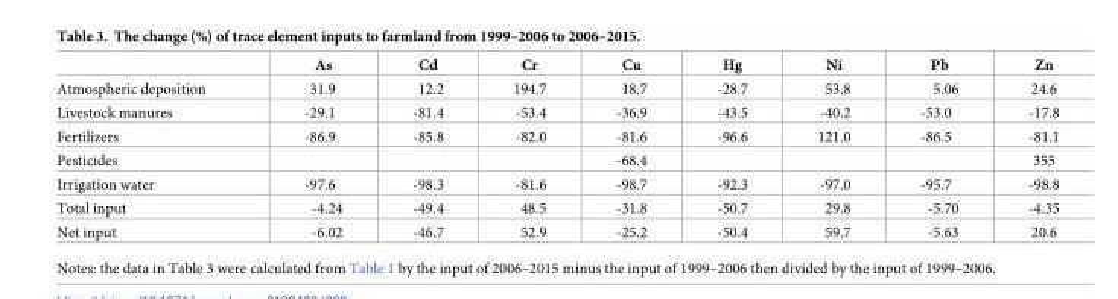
<table><thead><tr><td></td><td>As</td><td>Cd</td><td>Cr</td><td>Cu</td><td>Hg</td><td>Ni</td><td>Pb</td><td>Zn</td></tr></thead><tbody><tr><td>Atmospheric deposition</td><td>31.9</td><td>12.2</td><td>194.7</td><td>18.7</td><td>-28.7</td><td>53.8</td><td>5.06</td><td>24.6</td></tr><tr><td>Livestock manures</td><td>-29.1</td><td>-81.4</td><td>-53.4</td><td>-36.9</td><td>-43.5</td><td>-40.2</td><td>-53.0</td><td>-17.8</td></tr><tr><td>Fertilizers</td><td>-86.9</td><td>-85.8</td><td>-82.0</td><td>-81.6</td><td>-96.6</td><td>121.0</td><td>-86.5</td><td>-81.1</td></tr><tr><td>Pesticides</td><td></td><td></td><td></td><td>-68.4</td><td></td><td></td><td></td><td>355</td></tr><tr><td>Irrigation water</td><td>-97.6</td><td>-98.3</td><td>-81.6</td><td>-98.7</td><td>-92.3</td><td>-97.0</td><td>-95.7</td><td>-98.8</td></tr><tr><td>Total input</td><td>-4.24</td><td>-49.4</td><td>48.5</td><td>-31.8</td><td>-50.7</td><td>29.8</td><td>-5.70</td><td>-4.35</td></tr><tr><td>Net input</td><td>-6.02</td><td>-46.7</td><td>52.9</td><td>-25.2</td><td>-50.4</td><td>59.7</td><td>-5.63</td><td>20.6</td></tr></tbody></table>